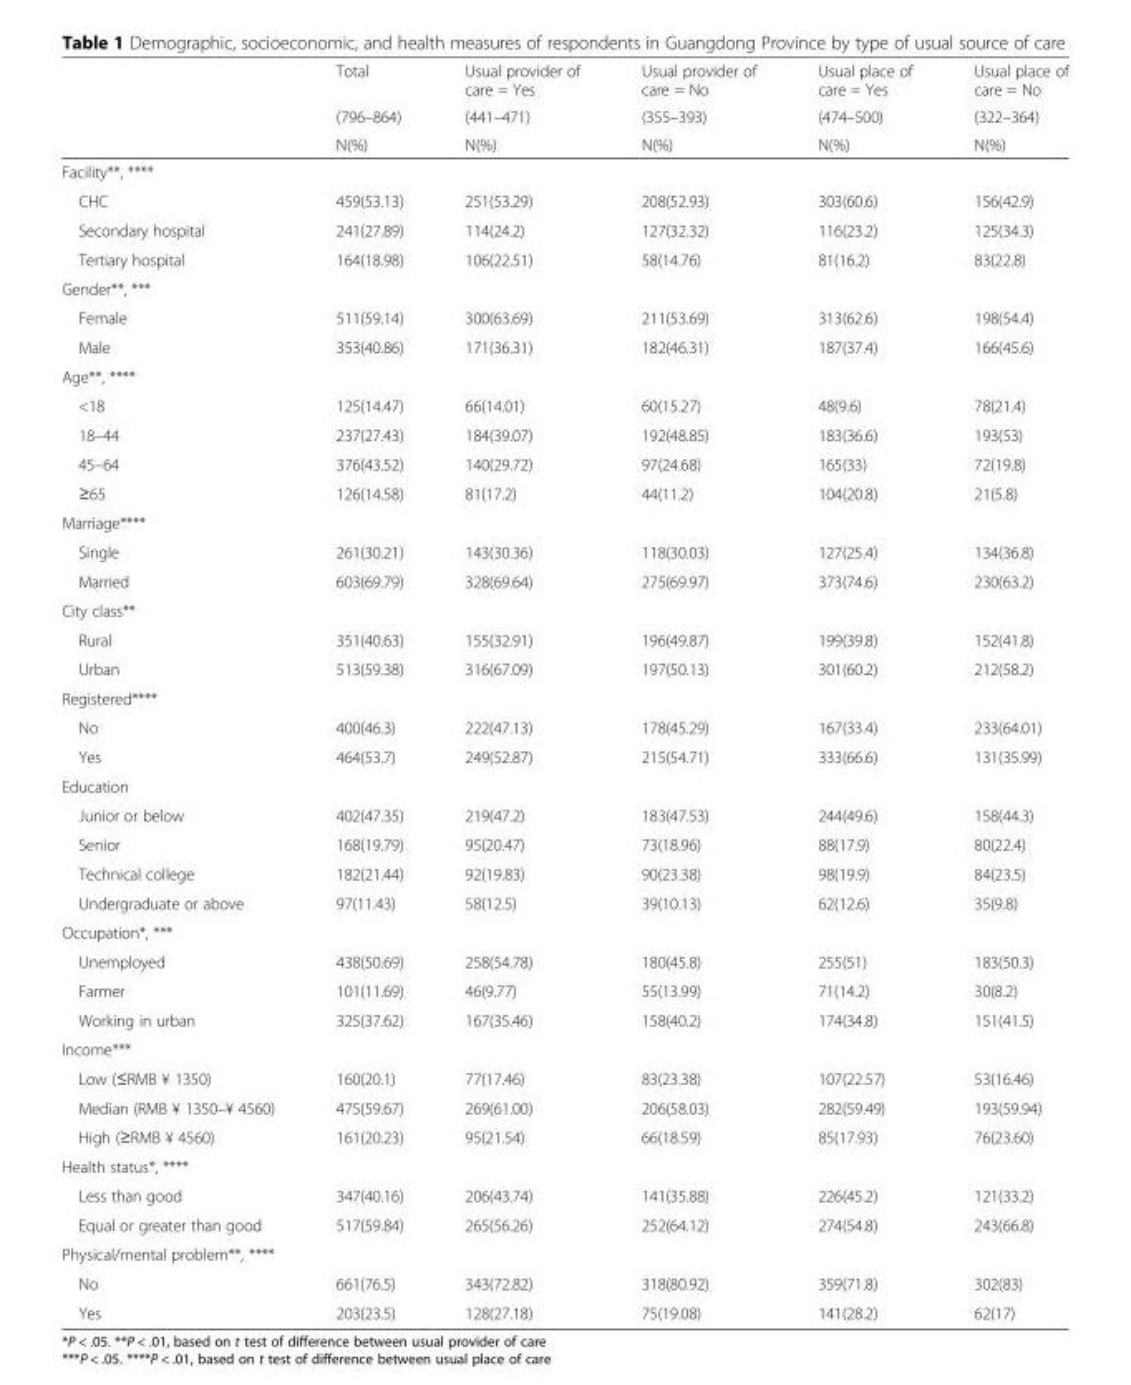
<table><thead><tr><td rowspan="3"></td><td rowspan="3">Total (796–864) N(%)</td><td rowspan="3">Usual provider of care = Yes (441–471) N(%)</td><td rowspan="3">Usual provider of care = No (355–393) N(%)</td><td rowspan="3">Usual place of care = Yes (474–500) N(%)</td><td rowspan="3">Usual place of care = No (322–364) N(%)</td></tr><tr></tr><tr></tr></thead><tbody><tr><td colspan="6">Facility**, ****</td></tr><tr><td>CHC</td><td>459(53.13)</td><td>251(53.29)</td><td>208(52.93)</td><td>303(60.6)</td><td>156(42.9)</td></tr><tr><td>Secondary hospital</td><td>241(27.89)</td><td>114(24.2)</td><td>127(32.32)</td><td>116(23.2)</td><td>125(34.3)</td></tr><tr><td>Tertiary hospital</td><td>164(18.98)</td><td>106(22.51)</td><td>58(14.76)</td><td>81(16.2)</td><td>83(22.8)</td></tr><tr><td colspan="6">Gender**, ***</td></tr><tr><td>Female</td><td>511(59.14)</td><td>300(63.69)</td><td>211(53.69)</td><td>313(62.6)</td><td>198(54.4)</td></tr><tr><td>Male</td><td>353(40.86)</td><td>171(36.31)</td><td>182(46.31)</td><td>187(37.4)</td><td>166(45.6)</td></tr><tr><td colspan="6">Age**, ****</td></tr><tr><td>&lt;18</td><td>125(14.47)</td><td>66(14.01)</td><td>60(15.27)</td><td>48(9.6)</td><td>78(21.4)</td></tr><tr><td>18–44</td><td>237(27.43)</td><td>184(39.07)</td><td>192(48.85)</td><td>183(36.6)</td><td>193(53)</td></tr><tr><td>45–64</td><td>376(43.52)</td><td>140(29.72)</td><td>97(24.68)</td><td>165(33)</td><td>72(19.8)</td></tr><tr><td>≥65</td><td>126(14.58)</td><td>81(17.2)</td><td>44(11.2)</td><td>104(20.8)</td><td>21(5.8)</td></tr><tr><td colspan="6">Marriage****</td></tr><tr><td>Single</td><td>261(30.21)</td><td>143(30.36)</td><td>118(30.03)</td><td>127(25.4)</td><td>134(36.8)</td></tr><tr><td>Married</td><td>603(69.79)</td><td>328(69.64)</td><td>275(69.97)</td><td>373(74.6)</td><td>230(63.2)</td></tr><tr><td colspan="6">City class**</td></tr><tr><td>Rural</td><td>351(40.63)</td><td>155(32.91)</td><td>196(49.87)</td><td>199(39.8)</td><td>152(41.8)</td></tr><tr><td>Urban</td><td>513(59.38)</td><td>316(67.09)</td><td>197(50.13)</td><td>301(60.2)</td><td>212(58.2)</td></tr><tr><td colspan="6">Registered****</td></tr><tr><td>No</td><td>400(46.3)</td><td>222(47.13)</td><td>178(45.29)</td><td>167(33.4)</td><td>233(64.01)</td></tr><tr><td>Yes</td><td>464(53.7)</td><td>249(52.87)</td><td>215(54.71)</td><td>333(66.6)</td><td>131(35.99)</td></tr><tr><td colspan="6">Education</td></tr><tr><td>Junior or below</td><td>402(47.35)</td><td>219(47.2)</td><td>183(47.53)</td><td>244(49.6)</td><td>158(44.3)</td></tr><tr><td>Senior</td><td>168(19.79)</td><td>95(20.47)</td><td>73(18.96)</td><td>88(17.9)</td><td>80(22.4)</td></tr><tr><td>Technical college</td><td>182(21.44)</td><td>92(19.83)</td><td>90(23.38)</td><td>98(19.9)</td><td>84(23.5)</td></tr><tr><td>Undergraduate or above</td><td>97(11.43)</td><td>58(12.5)</td><td>39(10.13)</td><td>62(12.6)</td><td>35(9.8)</td></tr><tr><td colspan="6">Occupation*, ***</td></tr><tr><td>Unemployed</td><td>438(50.69)</td><td>258(54.78)</td><td>180(45.8)</td><td>255(51)</td><td>183(50.3)</td></tr><tr><td>Farmer</td><td>101(11.69)</td><td>46(9.77)</td><td>55(13.99)</td><td>71(14.2)</td><td>30(8.2)</td></tr><tr><td>Working in urban</td><td>325(37.62)</td><td>167(35.46)</td><td>158(40.2)</td><td>174(34.8)</td><td>151(41.5)</td></tr><tr><td colspan="6">Income***</td></tr><tr><td>Low (≤RMB ¥ 1350)</td><td>160(20.1)</td><td>77(17.46)</td><td>83(23.38)</td><td>107(22.57)</td><td>53(16.46)</td></tr><tr><td>Median (RMB ¥ 1350–¥ 4560)</td><td>475(59.67)</td><td>269(61.00)</td><td>206(58.03)</td><td>282(59.49)</td><td>193(59.94)</td></tr><tr><td>High (≥RMB ¥ 4560)</td><td>161(20.23)</td><td>95(21.54)</td><td>66(18.59)</td><td>85(17.93)</td><td>76(23.60)</td></tr><tr><td colspan="6">Health status*, ****</td></tr><tr><td>Less than good</td><td>347(40.16)</td><td>206(43.74)</td><td>141(35.88)</td><td>226(45.2)</td><td>121(33.2)</td></tr><tr><td>Equal or greater than good</td><td>517(59.84)</td><td>265(56.26)</td><td>252(64.12)</td><td>274(54.8)</td><td>243(66.8)</td></tr><tr><td colspan="6">Physical/mental problem**, ****</td></tr><tr><td>No</td><td>661(76.5)</td><td>343(72.82)</td><td>318(80.92)</td><td>359(71.8)</td><td>302(83)</td></tr><tr><td>Yes</td><td>203(23.5)</td><td>128(27.18)</td><td>75(19.08)</td><td>141(28.2)</td><td>62(17)</td></tr></tbody></table>